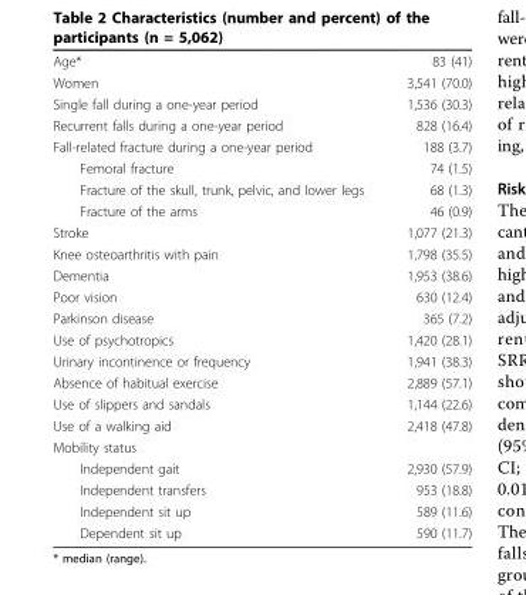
<table><tbody><tr><td>Age*</td><td>83 (41)</td></tr><tr><td>Women</td><td>3,541 (70.0)</td></tr><tr><td>Single fall during a one-year period</td><td>1,536 (30.3)</td></tr><tr><td>Recurrent falls during a one-year period</td><td>828 (16.4)</td></tr><tr><td>Fall-related fracture during a one-year period</td><td>188 (3.7)</td></tr><tr><td>Femoral fracture</td><td>74 (1.5)</td></tr><tr><td>Fracture of the skull, trunk, pelvic, and lower legs</td><td>68 (1.3)</td></tr><tr><td>Fracture of the arms</td><td>46 (0.9)</td></tr><tr><td>Stroke</td><td>1,077 (21.3)</td></tr><tr><td>Knee osteoarthritis with pain</td><td>1,798 (35.5)</td></tr><tr><td>Dementia</td><td>1,953 (38.6)</td></tr><tr><td>Poor vision</td><td>630 (12.4)</td></tr><tr><td>Parkinson disease</td><td>365 (7.2)</td></tr><tr><td>Use of psychotropics</td><td>1,420 (28.1)</td></tr><tr><td>Urinary incontinence or frequency</td><td>1,941 (38.3)</td></tr><tr><td>Absence of habitual exercise</td><td>2,889 (57.1)</td></tr><tr><td>Use of slippers and sandals</td><td>1,144 (22.6)</td></tr><tr><td>Use of a walking aid</td><td>2,418 (47.8)</td></tr><tr><td colspan="2">Mobility status</td></tr><tr><td>Independent gait</td><td>2,930 (57.9)</td></tr><tr><td>Independent transfers</td><td>953 (18.8)</td></tr><tr><td>Independent sit up</td><td>589 (11.6)</td></tr><tr><td>Dependent sit up</td><td>590 (11.7)</td></tr></tbody></table>